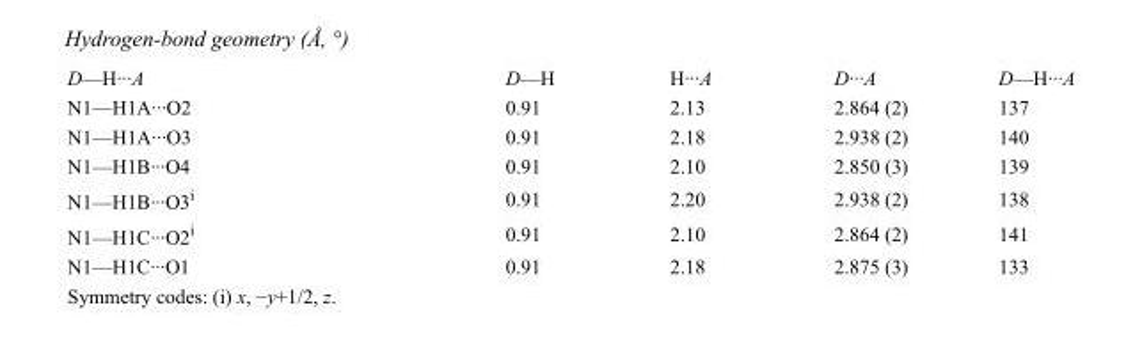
<table><tbody><tr><td>D—H···A</td><td>D—H</td><td>H···A</td><td>D···A</td><td>D—H···A</td></tr><tr><td>N1—H1A···O2</td><td>0.91</td><td>2.13</td><td>2.864 (2)</td><td>137</td></tr><tr><td>N1—H1A···O3</td><td>0.91</td><td>2.18</td><td>2.938 (2)</td><td>140</td></tr><tr><td>N1—H1B···O4</td><td>0.91</td><td>2.10</td><td>2.850 (3)</td><td>139</td></tr><tr><td>N1—H1B···O3<sup>i</sup></td><td>0.91</td><td>2.20</td><td>2.938 (2)</td><td>138</td></tr><tr><td>N1—H1C···O2<sup>i</sup></td><td>0.91</td><td>2.10</td><td>2.864 (2)</td><td>141</td></tr><tr><td>N1—H1C···O1</td><td>0.91</td><td>2.18</td><td>2.875 (3)</td><td>133</td></tr></tbody></table>